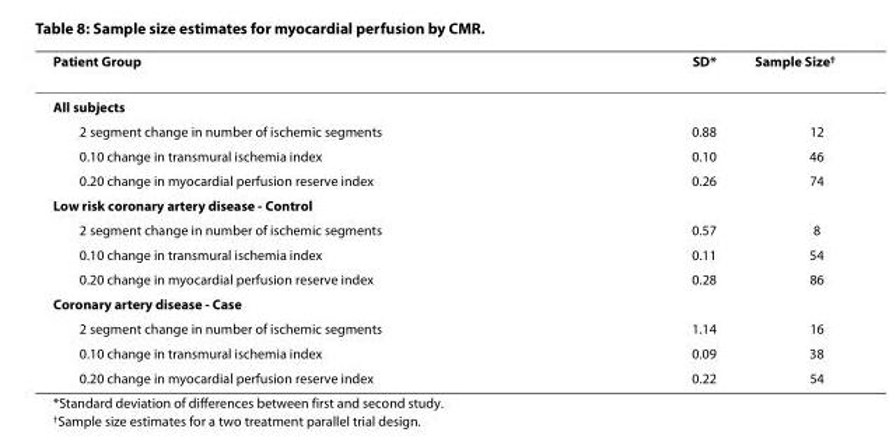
<table><thead><tr><td>Patient Group</td><td>SD*</td><td>Sample Size<sup>†</sup></td></tr></thead><tbody><tr><td colspan="3">All subjects</td></tr><tr><td>2 segment change in number of ischemic segments</td><td>0.88</td><td>12</td></tr><tr><td>0.10 change in transmural ischemia index</td><td>0.10</td><td>46</td></tr><tr><td>0.20 change in myocardial perfusion reserve index</td><td>0.26</td><td>74</td></tr><tr><td colspan="3">Low risk coronary artery disease - Control</td></tr><tr><td>2 segment change in number of ischemic segments</td><td>0.57</td><td>8</td></tr><tr><td>0.10 change in transmural ischemia index</td><td>0.11</td><td>54</td></tr><tr><td>0.20 change in myocardial perfusion reserve index</td><td>0.28</td><td>86</td></tr><tr><td colspan="3">Coronary artery disease - Case</td></tr><tr><td>2 segment change in number of ischemic segments</td><td>1.14</td><td>16</td></tr><tr><td>0.10 change in transmural ischemia index</td><td>0.09</td><td>38</td></tr><tr><td>0.20 change in myocardial perfusion reserve index</td><td>0.22</td><td>54</td></tr></tbody></table>